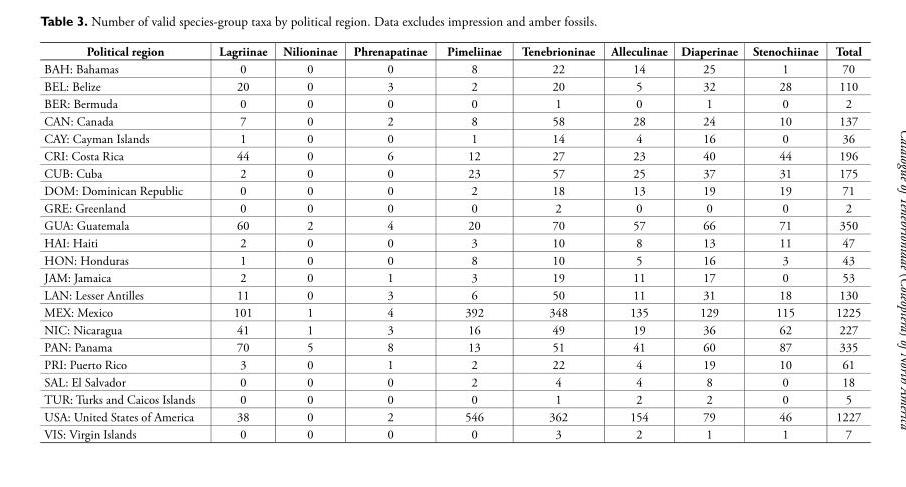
<table><thead><tr><td>Political region</td><td>Lagriinae</td><td>Nilioninae</td><td>Phrenapatinae</td><td>Pimeliinae</td><td>Tenebrioninae</td><td>Alleculinae</td><td>Diaperinae</td><td>Stenochiinae</td><td>Total</td></tr></thead><tbody><tr><td>BAH: Bahamas</td><td>0</td><td>0</td><td>0</td><td>8</td><td>22</td><td>14</td><td>25</td><td>1</td><td>70</td></tr><tr><td>BEL: Belize</td><td>20</td><td>0</td><td>3</td><td>2</td><td>20</td><td>5</td><td>32</td><td>28</td><td>110</td></tr><tr><td>BER: Bermuda</td><td>0</td><td>0</td><td>0</td><td>0</td><td>1</td><td>0</td><td>1</td><td>0</td><td>2</td></tr><tr><td>CAN: Canada</td><td>7</td><td>0</td><td>2</td><td>8</td><td>58</td><td>28</td><td>24</td><td>10</td><td>137</td></tr><tr><td>CAY: Cayman Islands</td><td>1</td><td>0</td><td>0</td><td>1</td><td>14</td><td>4</td><td>16</td><td>0</td><td>36</td></tr><tr><td>CRI: Costa Rica</td><td>44</td><td>0</td><td>6</td><td>12</td><td>27</td><td>23</td><td>40</td><td>44</td><td>196</td></tr><tr><td>CUB: Cuba</td><td>2</td><td>0</td><td>0</td><td>23</td><td>57</td><td>25</td><td>37</td><td>31</td><td>175</td></tr><tr><td>DOM: Dominican Republic</td><td>0</td><td>0</td><td>0</td><td>2</td><td>18</td><td>13</td><td>19</td><td>19</td><td>71</td></tr><tr><td>GRE: Greenland</td><td>0</td><td>0</td><td>0</td><td>0</td><td>2</td><td>0</td><td>0</td><td>0</td><td>2</td></tr><tr><td>GUA: Guatemala</td><td>60</td><td>2</td><td>4</td><td>20</td><td>70</td><td>57</td><td>66</td><td>71</td><td>350</td></tr><tr><td>HAI: Haiti</td><td>2</td><td>0</td><td>0</td><td>3</td><td>10</td><td>8</td><td>13</td><td>11</td><td>47</td></tr><tr><td>HON: Honduras</td><td>1</td><td>0</td><td>0</td><td>8</td><td>10</td><td>5</td><td>16</td><td>3</td><td>43</td></tr><tr><td>JAM: Jamaica</td><td>2</td><td>0</td><td>1</td><td>3</td><td>19</td><td>11</td><td>17</td><td>0</td><td>53</td></tr><tr><td>LAN: Lesser Antilles</td><td>11</td><td>0</td><td>3</td><td>6</td><td>50</td><td>11</td><td>31</td><td>18</td><td>130</td></tr><tr><td>MEX: Mexico</td><td>101</td><td>1</td><td>4</td><td>392</td><td>348</td><td>135</td><td>129</td><td>115</td><td>1225</td></tr><tr><td>NIC: Nicaragua</td><td>41</td><td>1</td><td>3</td><td>16</td><td>49</td><td>19</td><td>36</td><td>62</td><td>227</td></tr><tr><td>PAN: Panama</td><td>70</td><td>5</td><td>8</td><td>13</td><td>51</td><td>41</td><td>60</td><td>87</td><td>335</td></tr><tr><td>PRI: Puerto Rico</td><td>3</td><td>0</td><td>1</td><td>2</td><td>22</td><td>4</td><td>19</td><td>10</td><td>61</td></tr><tr><td>SAL: El Salvador</td><td>0</td><td>0</td><td>0</td><td>2</td><td>4</td><td>4</td><td>8</td><td>0</td><td>18</td></tr><tr><td>TUR: Turks and Caicos Islands</td><td>0</td><td>0</td><td>0</td><td>0</td><td>1</td><td>2</td><td>2</td><td>0</td><td>5</td></tr><tr><td>USA: United States of America</td><td>38</td><td>0</td><td>2</td><td>546</td><td>362</td><td>154</td><td>79</td><td>46</td><td>1227</td></tr><tr><td>VIS: Virgin Islands</td><td>0</td><td>0</td><td>0</td><td>0</td><td>3</td><td>2</td><td>1</td><td>1</td><td>7</td></tr></tbody></table>